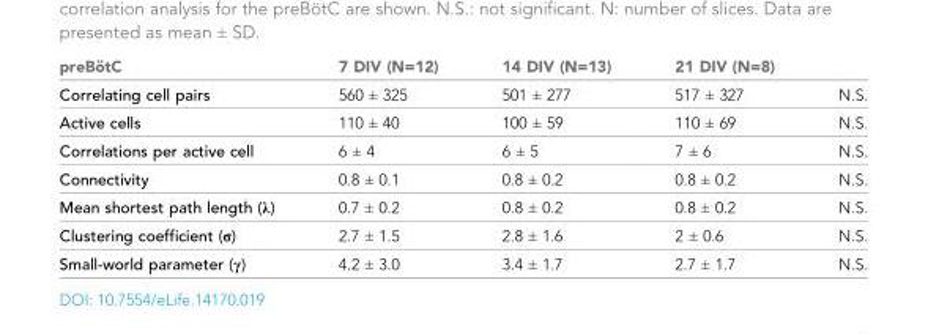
<table><thead><tr><td>preBo¨ tC</td><td>7 DIV (N=12)</td><td>14 DIV (N=13)</td><td>21 DIV (N=8)</td><td></td></tr></thead><tbody><tr><td>Correlating cell pairs</td><td>560 ± 325</td><td>501 ± 277</td><td>517 ± 327</td><td>N.S.</td></tr><tr><td>Active cells</td><td>110 ± 40</td><td>100 ± 59</td><td>110 ± 69</td><td>N.S.</td></tr><tr><td>Correlations per active cell</td><td>6 ± 4</td><td>6 ± 5</td><td>7 ± 6</td><td>N.S.</td></tr><tr><td>Connectivity</td><td>0.8 ± 0.1</td><td>0.8 ± 0.2</td><td>0.8 ± 0.2</td><td>N.S.</td></tr><tr><td>Mean shortest path length (λ)</td><td>0.7 ± 0.2</td><td>0.8 ± 0.2</td><td>0.8 ± 0.2</td><td>N.S.</td></tr><tr><td>Clustering coefficient (σ)</td><td>2.7 ± 1.5</td><td>2.8 ± 1.6</td><td>2 ± 0.6</td><td>N.S.</td></tr><tr><td>Small-world parameter (γ)</td><td>4.2 ± 3.0</td><td>3.4 ± 1.7</td><td>2.7 ± 1.7</td><td>N.S.</td></tr></tbody></table>